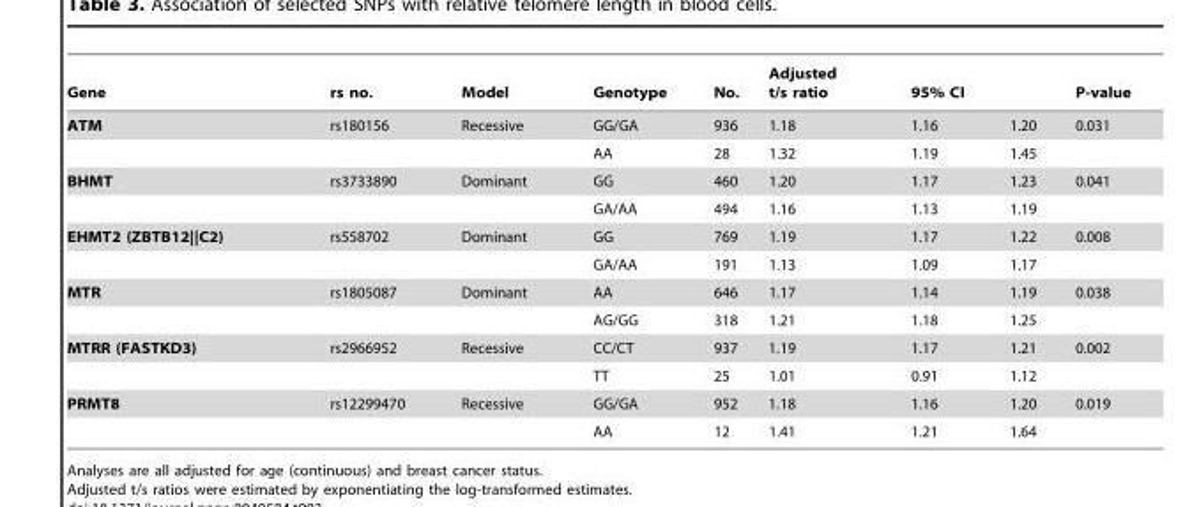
<table><thead><tr><td rowspan="2">Gene ATM</td><td rowspan="2">rs no. rs180156</td><td rowspan="2">Model Recessive</td><td rowspan="2">Genotype GG/GA</td><td rowspan="2">No. 936</td><td rowspan="2">Adjusted t/s ratio 1.18</td><td colspan="2">95% CI</td><td rowspan="2">P-value 0.031</td></tr><tr><td>1.16</td><td>1.20</td></tr></thead><tbody><tr><td></td><td></td><td></td><td>AA</td><td>28</td><td>1.32</td><td>1.19</td><td>1.45</td><td></td></tr><tr><td rowspan="2">BHMT</td><td>rs3733890</td><td>Dominant</td><td>GG</td><td>460</td><td>1.20</td><td>1.17</td><td>1.23</td><td>0.041</td></tr><tr><td></td><td></td><td>GA/AA</td><td>494</td><td>1.16</td><td>1.13</td><td>1.19</td><td></td></tr><tr><td rowspan="2">EHMT2 (ZBTB12||C2)</td><td>rs558702</td><td>Dominant</td><td>GG</td><td>769</td><td>1.19</td><td>1.17</td><td>1.22</td><td>0.008</td></tr><tr><td></td><td></td><td>GA/AA</td><td>191</td><td>1.13</td><td>1.09</td><td>1.17</td><td></td></tr><tr><td rowspan="2">MTR</td><td>rs1805087</td><td>Dominant</td><td>AA</td><td>646</td><td>1.17</td><td>1.14</td><td>1.19</td><td>0.038</td></tr><tr><td></td><td></td><td>AG/GG</td><td>318</td><td>1.21</td><td>1.18</td><td>1.25</td><td></td></tr><tr><td rowspan="2">MTRR (FASTKD3)</td><td>rs2966952</td><td>Recessive</td><td>CC/CT</td><td>937</td><td>1.19</td><td>1.17</td><td>1.21</td><td>0.002</td></tr><tr><td></td><td></td><td>TT</td><td>25</td><td>1.01</td><td>0.91</td><td>1.12</td><td></td></tr><tr><td rowspan="2">PRMT8</td><td>rs12299470</td><td>Recessive</td><td>GG/GA</td><td>952</td><td>1.18</td><td>1.16</td><td>1.20</td><td>0.019</td></tr><tr><td></td><td></td><td>AA</td><td>12</td><td>1.41</td><td>1.21</td><td>1.64</td><td></td></tr></tbody></table>